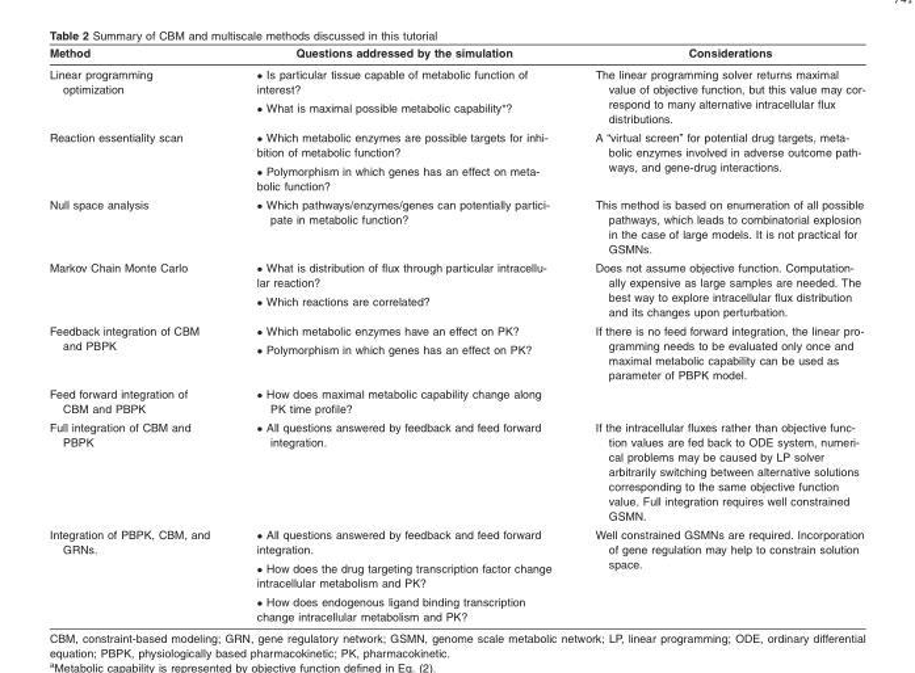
<table><thead><tr><td>Method</td><td>Questions addressed by the simulation</td><td>Considerations</td></tr></thead><tbody><tr><td>Linear programming optimization</td><td>• Is particular tissue capable of metabolic function of interest? • What is maximal possible metabolic capability*?</td><td>The linear programming solver returns maximal value of objective function, but this value may cor- respond to many alternative intracellular flux distributions.</td></tr><tr><td>Reaction essentiality scan</td><td>� Which metabolic enzymes are possible targets for inhi- bition of metabolic function? � Polymorphism in which genes has an effect on meta- bolic function?</td><td>A “virtual screen” for potential drug targets, meta- bolic enzymes involved in adverse outcome path- ways, and gene-drug interactions.</td></tr><tr><td>Null space analysis</td><td>� Which pathways/enzymes/genes can potentially partici- pate in metabolic function?</td><td>This method is based on enumeration of all possible pathways, which leads to combinatorial explosion in the case of large models. It is not practical for GSMNs.</td></tr><tr><td>Markov Chain Monte Carlo</td><td>� What is distribution of flux through particular intracellu- lar reaction? � Which reactions are correlated?</td><td>Does not assume objective function. Computation- ally expensive as large samples are needed. The best way to explore intracellular flux distribution and its changes upon perturbation.</td></tr><tr><td>Feedback integration of CBM and PBPK</td><td>• Which metabolic enzymes have an effect on PK? • Polymorphism in which genes has an effect on PK?</td><td>If there is no feed forward integration, the linear pro- gramming needs to be evaluated only once and maximal metabolic capability can be used as parameter of PBPK model.</td></tr><tr><td>Feed forward integration of CBM and PBPK</td><td>• How does maximal metabolic capability change along PK time profile?</td><td></td></tr><tr><td>Full integration of CBM and PBPK</td><td>• All questions answered by feedback and feed forward integration.</td><td>If the intracellular fluxes rather than objective func- tion values are fed back to ODE system, numeri- cal problems may be caused by LP solver arbitrarily switching between alternative solutions corresponding to the same objective function value. Full integration requires well constrained GSMN.</td></tr><tr><td>Integration of PBPK, CBM, and GRNs.</td><td>• All questions answered by feedback and feed forward integration. • How does the drug targeting transcription factor change intracellular metabolism and PK? • How does endogenous ligand binding transcription change intracellular metabolism and PK?</td><td>Well constrained GSMNs are required. Incorporation of gene regulation may help to constrain solution space.</td></tr></tbody></table>